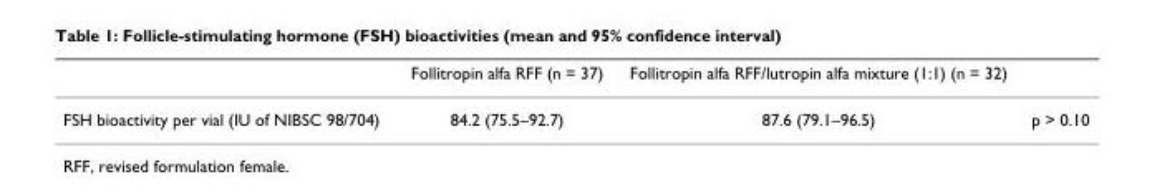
<table><thead><tr><td></td><td>Follitropin alfa RFF (n = 37)</td><td>Follitropin alfa RFF/lutropin alfa mixture (1:1) (n = 32)</td><td></td></tr></thead><tbody><tr><td>FSH bioactivity per vial (IU of NIBSC 98/704)</td><td>84.2 (75.5–92.7)</td><td>87.6 (79.1–96.5)</td><td>p &gt; 0.10</td></tr></tbody></table>